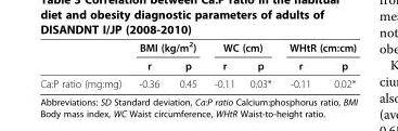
<table><thead><tr><td rowspan="2"></td><td colspan="2">BMI (kg/m<sup>2</sup>)</td><td colspan="2">WC (cm)</td><td colspan="2">WHtR (cm:cm)</td></tr><tr><td>r</td><td>p</td><td>r</td><td>p</td><td>r</td><td>p</td></tr></thead><tbody><tr><td>Ca:P ratio (mg:mg)</td><td>-0.36</td><td>0.45</td><td>-0.11</td><td>0.03*</td><td>-0.11</td><td>0.02*</td></tr></tbody></table>